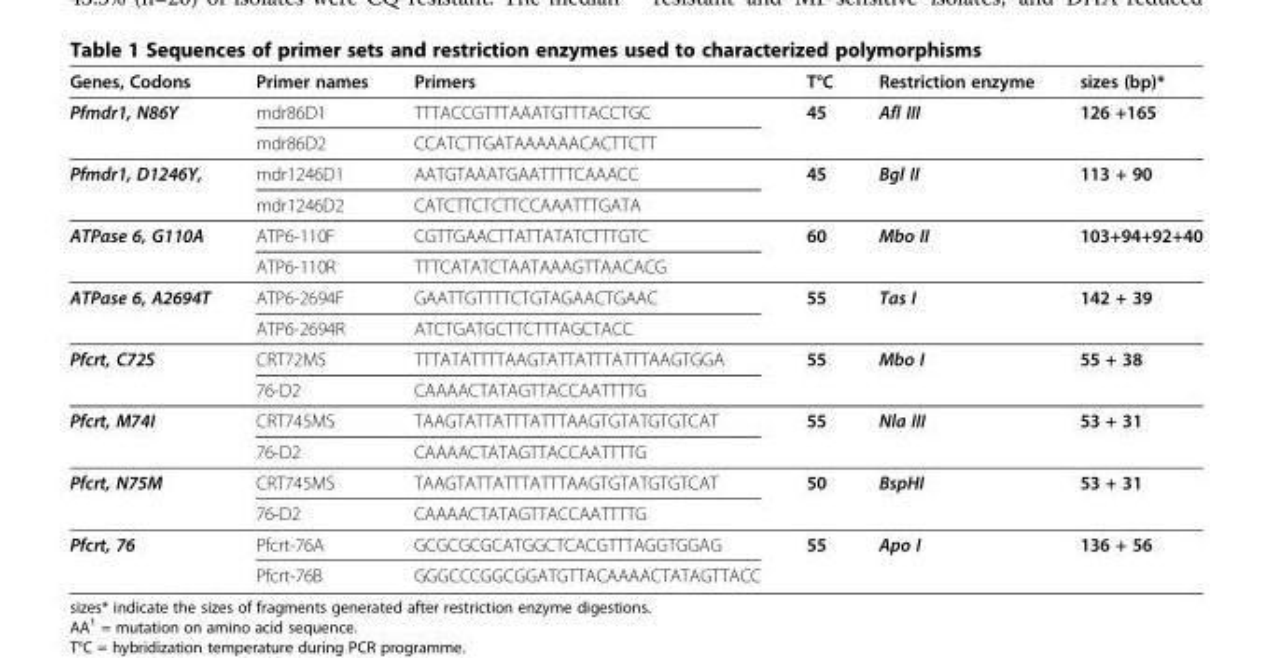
<table><thead><tr><td>Genes, Codons</td><td>Primer names</td><td>Primers</td><td>T°C</td><td>Restriction enzyme</td><td>sizes (bp)*</td></tr></thead><tbody><tr><td rowspan="2">Pfmdr1, N86Y</td><td>mdr86D1</td><td>TTTACCGTTTAAATGTTTACCTGC</td><td rowspan="2">45</td><td rowspan="2">Afl III</td><td rowspan="2">126 +165</td></tr><tr><td>mdr86D2</td><td>CCATCTTGATAAAAAACACTTCTT</td></tr><tr><td rowspan="2">Pfmdr1, D1246Y,</td><td>mdr1246D1</td><td>AATGTAAATGAATTTTCAAACC</td><td rowspan="2">45</td><td rowspan="2">Bgl II</td><td rowspan="2">113 + 90</td></tr><tr><td>mdr1246D2</td><td>CATCTTCTCTTCCAAATTTGATA</td></tr><tr><td rowspan="2">ATPase 6, G110A</td><td>ATP6-110F</td><td>CGTTGAACTTATTATATCTTTGTC</td><td rowspan="2">60</td><td rowspan="2">Mbo II</td><td rowspan="2">103+94+92+40</td></tr><tr><td>ATP6-110R</td><td>TTTCATATCTAATAAAGTTAACACG</td></tr><tr><td rowspan="2">ATPase 6, A2694T</td><td>ATP6-2694F</td><td>GAATTGTTTTCTGTAGAACTGAAC</td><td rowspan="2">55</td><td rowspan="2">Tas I</td><td rowspan="2">142 + 39</td></tr><tr><td>ATP6-2694R</td><td>ATCTGATGCTTCTTTAGCTACC</td></tr><tr><td rowspan="2">Pfcrt, C72S</td><td>CRT72MS</td><td>TTTATATTTTAAGTATTATTTATTTAAGTGGA</td><td rowspan="2">55</td><td rowspan="2">Mbo I</td><td rowspan="2">55 + 38</td></tr><tr><td>76-D2</td><td>CAAAACTATAGTTACCAATTTTG</td></tr><tr><td rowspan="2">Pfcrt, M74I</td><td>CRT745MS</td><td>TAAGTATTATTTATTTAAGTGTATGTGTCAT</td><td rowspan="2">55</td><td rowspan="2">Nla III</td><td rowspan="2">53 + 31</td></tr><tr><td>76-D2</td><td>CAAAACTATAGTTACCAATTTTG</td></tr><tr><td rowspan="2">Pfcrt, N75M</td><td>CRT745MS</td><td>TAAGTATTATTTATTTAAGTGTATGTGTCAT</td><td rowspan="2">50</td><td rowspan="2">BspHI</td><td rowspan="2">53 + 31</td></tr><tr><td>76-D2</td><td>CAAAACTATAGTTACCAATTTTG</td></tr><tr><td rowspan="2">Pfcrt, 76</td><td>Pfcrt-76A</td><td>GCGCGCGCATGGCTCACGTTTAGGTGGAG</td><td rowspan="2">55</td><td rowspan="2">Apo I</td><td rowspan="2">136 + 56</td></tr><tr><td>Pfcrt-76B</td><td>GGGCCCGGCGGATGTTACAAAACTATAGTTACC</td></tr></tbody></table>